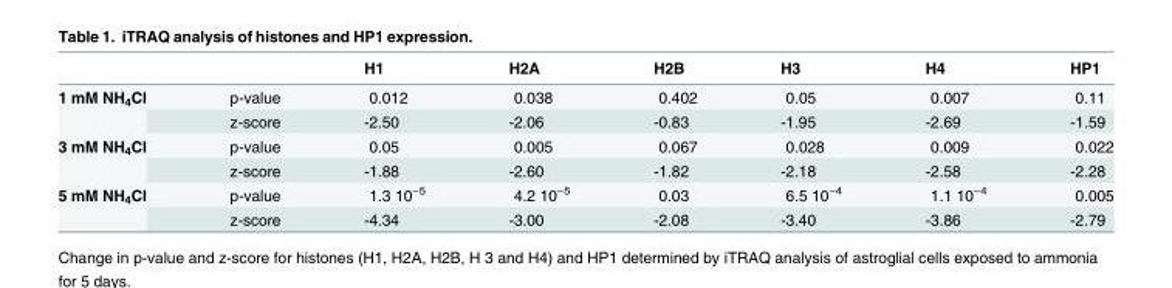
<table><thead><tr><td></td><td></td><td>H1</td><td>H2A</td><td>H2B</td><td>H3</td><td>H4</td><td>HP1</td></tr></thead><tbody><tr><td rowspan="2">1 mM NH<sub>4</sub>Cl</td><td>p-value</td><td>0.012</td><td>0.038</td><td>0.402</td><td>0.05</td><td>0.007</td><td>0.11</td></tr><tr><td>z-score</td><td>-2.50</td><td>-2.06</td><td>-0.83</td><td>-1.95</td><td>-2.69</td><td>-1.59</td></tr><tr><td rowspan="2">3 mM NH<sub>4</sub>Cl</td><td>p-value</td><td>0.05</td><td>0.005</td><td>0.067</td><td>0.028</td><td>0.009</td><td>0.022</td></tr><tr><td>z-score</td><td>-1.88</td><td>-2.60</td><td>-1.82</td><td>-2.18</td><td>-2.58</td><td>-2.28</td></tr><tr><td rowspan="2">5 mM NH<sub>4</sub>Cl</td><td>p-value</td><td>1.3 10<sup>−5</sup></td><td>4.2 10<sup>−5</sup></td><td>0.03</td><td>6.5 10<sup>−4</sup></td><td>1.1 10<sup>−4</sup></td><td>0.005</td></tr><tr><td>z-score</td><td>-4.34</td><td>-3.00</td><td>-2.08</td><td>-3.40</td><td>-3.86</td><td>-2.79</td></tr></tbody></table>